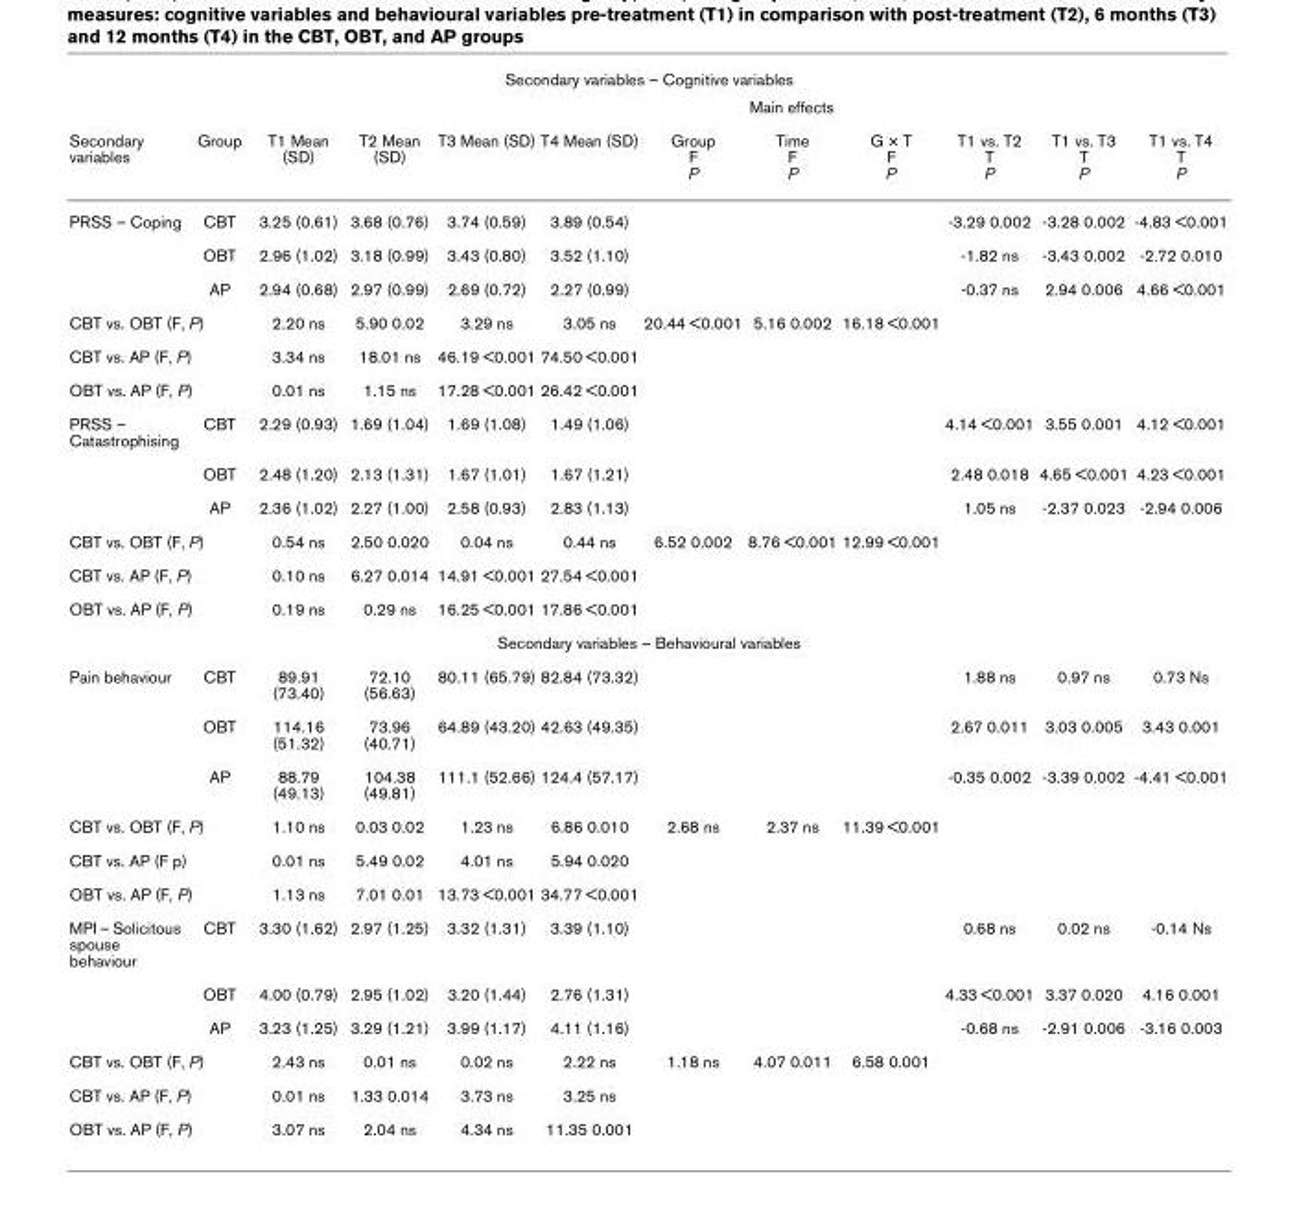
<table><thead><tr><td colspan="12">Secondary variables – Cognitive variables</td></tr><tr><td rowspan="2">Secondary variables</td><td rowspan="2">Group</td><td rowspan="2">T1 Mean (SD)</td><td rowspan="2">T2 Mean (SD)</td><td rowspan="2">T3 Mean (SD)</td><td rowspan="2">T4 Mean (SD)</td><td colspan="3">Main effects</td><td rowspan="2">T1 vs. T2 T P</td><td rowspan="2">T1 vs. T3 T P</td><td rowspan="2">T1 vs. T4 T P</td></tr><tr><td>Group F P</td><td>Time F P</td><td>G × T F P</td></tr></thead><tbody><tr><td rowspan="3">PRSS – Coping</td><td>CBT</td><td>3.25 (0.61)</td><td>3.68 (0.76)</td><td>3.74 (0.59)</td><td>3.89 (0.54)</td><td></td><td></td><td></td><td>-3.29 0.002</td><td>-3.28 0.002</td><td>-4.83 &lt;0.001</td></tr><tr><td>OBT</td><td>2.96 (1.02)</td><td>3.18 (0.99)</td><td>3.43 (0.80)</td><td>3.52 (1.10)</td><td></td><td></td><td></td><td>-1.82 ns</td><td>-3.43 0.002</td><td>-2.72 0.010</td></tr><tr><td>AP</td><td>2.94 (0.68)</td><td>2.97 (0.99)</td><td>2.69 (0.72)</td><td>2.27 (0.99)</td><td></td><td></td><td></td><td>-0.37 ns</td><td>2.94 0.006</td><td>4.66 &lt;0.001</td></tr><tr><td colspan="2">CBT vs. OBT (F, P)</td><td>2.20 ns</td><td>5.90 0.02</td><td>3.29 ns</td><td>3.05 ns</td><td>20.44 &lt;0.001</td><td>5.16 0.002</td><td>16.18 &lt;0.001</td><td></td><td></td><td></td></tr><tr><td colspan="2">CBT vs. AP (F, P)</td><td>3.34 ns</td><td>18.01 ns</td><td>46.19 &lt;0.001</td><td>74.50 &lt;0.001</td><td></td><td></td><td></td><td></td><td></td><td></td></tr><tr><td colspan="2">OBT vs. AP (F, P)</td><td>0.01 ns</td><td>1.15 ns</td><td>17.28 &lt;0.001</td><td>26.42 &lt;0.001</td><td></td><td></td><td></td><td></td><td></td><td></td></tr><tr><td rowspan="3">PRSS – Catastrophising</td><td>CBT</td><td>2.29 (0.93)</td><td>1.69 (1.04)</td><td>1.69 (1.08)</td><td>1.49 (1.06)</td><td></td><td></td><td></td><td>4.14 &lt;0.001</td><td>3.55 0.001</td><td>4.12 &lt;0.001</td></tr><tr><td>OBT</td><td>2.48 (1.20)</td><td>2.13 (1.31)</td><td>1.67 (1.01)</td><td>1.67 (1.21)</td><td></td><td></td><td></td><td>2.48 0.018</td><td>4.65 &lt;0.001</td><td>4.23 &lt;0.001</td></tr><tr><td>AP</td><td>2.36 (1.02)</td><td>2.27 (1.00)</td><td>2.58 (0.93)</td><td>2.83 (1.13)</td><td></td><td></td><td></td><td>1.05 ns</td><td>-2.37 0.023</td><td>-2.94 0.006</td></tr><tr><td colspan="2">CBT vs. OBT (F, P)</td><td>0.54 ns</td><td>2.50 0.020</td><td>0.04 ns</td><td>0.44 ns</td><td>6.52 0.002</td><td>8.76 &lt;0.001</td><td>12.99 &lt;0.001</td><td></td><td></td><td></td></tr><tr><td colspan="2">CBT vs. AP (F, P)</td><td>0.10 ns</td><td>6.27 0.014</td><td>14.91 &lt;0.001</td><td>27.54 &lt;0.001</td><td></td><td></td><td></td><td></td><td></td><td></td></tr><tr><td colspan="2">OBT vs. AP (F, P)</td><td>0.19 ns</td><td>0.29 ns</td><td>16.25 &lt;0.001</td><td>17.86 &lt;0.001</td><td></td><td></td><td></td><td></td><td></td><td></td></tr><tr><td colspan="12">Secondary variables – Behavioural variables</td></tr><tr><td rowspan="3">Pain behaviour</td><td>CBT</td><td>89.91 (73.40)</td><td>72.10 (56.63)</td><td>80.11 (65.79)</td><td>82.84 (73.32)</td><td></td><td></td><td></td><td>1.88 ns</td><td>0.97 ns</td><td>0.73 Ns</td></tr><tr><td>OBT</td><td>114.16 (51.32)</td><td>73.96 (40.71)</td><td>64.89 (43.20)</td><td>42.63 (49.35)</td><td></td><td></td><td></td><td>2.67 0.011</td><td>3.03 0.005</td><td>3.43 0.001</td></tr><tr><td>AP</td><td>88.79 (49.13)</td><td>104.38 (49.81)</td><td>111.1 (52.66)</td><td>124.4 (57.17)</td><td></td><td></td><td></td><td>-0.35 0.002</td><td>-3.39 0.002</td><td>-4.41 &lt;0.001</td></tr><tr><td colspan="2">CBT vs. OBT (F, P)</td><td>1.10 ns</td><td>0.03 0.02</td><td>1.23 ns</td><td>6.86 0.010</td><td>2.68 ns</td><td>2.37 ns</td><td>11.39 &lt;0.001</td><td></td><td></td><td></td></tr><tr><td colspan="2">CBT vs. AP (F p)</td><td>0.01 ns</td><td>5.49 0.02</td><td>4.01 ns</td><td>5.94 0.020</td><td></td><td></td><td></td><td></td><td></td><td></td></tr><tr><td colspan="2">OBT vs. AP (F, P)</td><td>1.13 ns</td><td>7.01 0.01</td><td>13.73 &lt;0.001</td><td>34.77 &lt;0.001</td><td></td><td></td><td></td><td></td><td></td><td></td></tr><tr><td rowspan="3">MPI – Solicitous spouse behaviour</td><td>CBT</td><td>3.30 (1.62)</td><td>2.97 (1.25)</td><td>3.32 (1.31)</td><td>3.39 (1.10)</td><td></td><td></td><td></td><td>0.68 ns</td><td>0.02 ns</td><td>-0.14 Ns</td></tr><tr><td>OBT</td><td>4.00 (0.79)</td><td>2.95 (1.02)</td><td>3.20 (1.44)</td><td>2.76 (1.31)</td><td></td><td></td><td></td><td>4.33 &lt;0.001</td><td>3.37 0.020</td><td>4.16 0.001</td></tr><tr><td>AP</td><td>3.23 (1.25)</td><td>3.29 (1.21)</td><td>3.99 (1.17)</td><td>4.11 (1.16)</td><td></td><td></td><td></td><td>-0.68 ns</td><td>-2.91 0.006</td><td>-3.16 0.003</td></tr><tr><td colspan="2">CBT vs. OBT (F, P)</td><td>2.43 ns</td><td>0.01 ns</td><td>0.02 ns</td><td>2.22 ns</td><td>1.18 ns</td><td>4.07 0.011</td><td>6.58 0.001</td><td></td><td></td><td></td></tr><tr><td colspan="2">CBT vs. AP (F, P)</td><td>0.01 ns</td><td>1.33 0.014</td><td>3.73 ns</td><td>3.25 ns</td><td></td><td></td><td></td><td></td><td></td><td></td></tr><tr><td colspan="2">OBT vs. AP (F, P)</td><td>3.07 ns</td><td>2.04 ns</td><td>4.34 ns</td><td>11.35 0.001</td><td></td><td></td><td></td><td></td><td></td><td></td></tr></tbody></table>